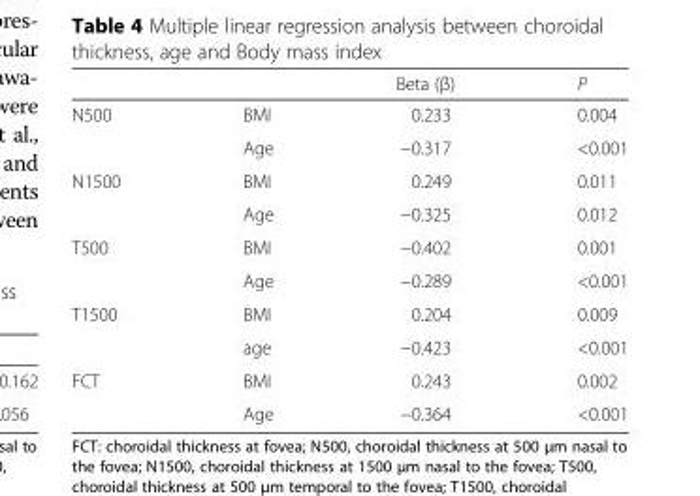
<table><thead><tr><td></td><td></td><td>Beta (β)</td><td>P</td></tr></thead><tbody><tr><td rowspan="2">N500</td><td>BMI</td><td>0.233</td><td>0.004</td></tr><tr><td>Age</td><td>−0.317</td><td>&lt;0.001</td></tr><tr><td rowspan="2">N1500</td><td>BMI</td><td>0.249</td><td>0.011</td></tr><tr><td>Age</td><td>−0.325</td><td>0.012</td></tr><tr><td rowspan="2">T500</td><td>BMI</td><td>−0.402</td><td>0.001</td></tr><tr><td>Age</td><td>−0.289</td><td>&lt;0.001</td></tr><tr><td rowspan="2">T1500</td><td>BMI</td><td>0.204</td><td>0.009</td></tr><tr><td>age</td><td>−0.423</td><td>&lt;0.001</td></tr><tr><td rowspan="2">FCT</td><td>BMI</td><td>0.243</td><td>0.002</td></tr><tr><td>Age</td><td>−0.364</td><td>&lt;0.001</td></tr></tbody></table>